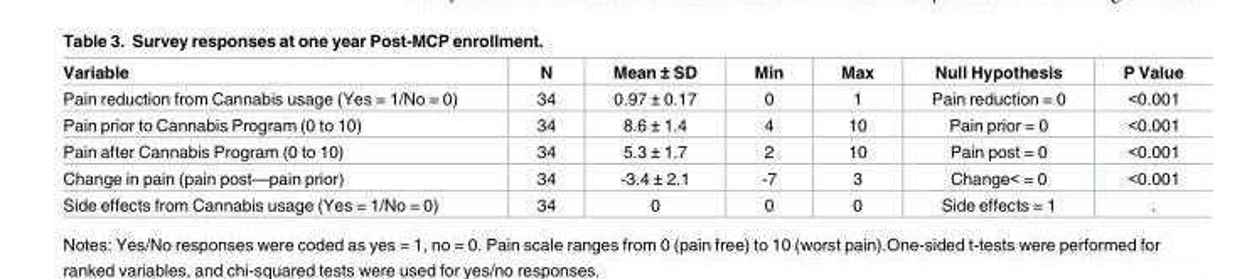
<table><thead><tr><td>Variable</td><td>N</td><td>Mean ± SD</td><td>Min</td><td>Max</td><td>Null Hypothesis</td><td>P Value</td></tr></thead><tbody><tr><td>Pain reduction from Cannabis usage (Yes = 1/No = 0)</td><td>34</td><td>0.97 ± 0.17</td><td>0</td><td>1</td><td>Pain reduction = 0</td><td>&lt;0.001</td></tr><tr><td>Pain prior to Cannabis Program (0 to 10)</td><td>34</td><td>8.6 ± 1.4</td><td>4</td><td>10</td><td>Pain prior = 0</td><td>&lt;0.001</td></tr><tr><td>Pain after Cannabis Program (0 to 10)</td><td>34</td><td>5.3 ± 1.7</td><td>2</td><td>10</td><td>Pain post = 0</td><td>&lt;0.001</td></tr><tr><td>Change in pain (pain post—pain prior)</td><td>34</td><td>-3.4 ± 2.1</td><td>-7</td><td>3</td><td>Change&lt; = 0</td><td>&lt;0.001</td></tr><tr><td>Side effects from Cannabis usage (Yes = 1/No = 0)</td><td>34</td><td>0</td><td>0</td><td>0</td><td>Side effects = 1</td><td>.</td></tr></tbody></table>